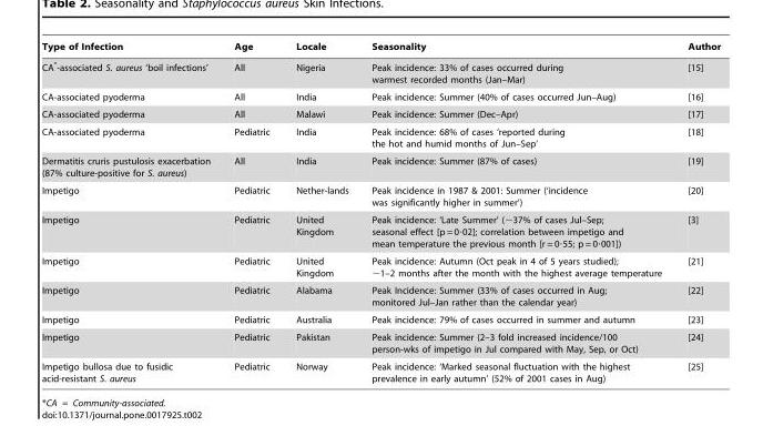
<table><thead><tr><td>Type of Infection</td><td>Age</td><td>Locale</td><td>Seasonality</td><td>Author</td></tr></thead><tbody><tr><td>CA*-associated S. aureus ‘boil infections’</td><td>All</td><td>Nigeria</td><td>Peak incidence: 33% of cases occurred during warmest recorded months (Jan–Mar)</td><td>[15]</td></tr><tr><td>CA-associated pyoderma</td><td>All</td><td>India</td><td>Peak incidence: Summer (40% of cases occurred Jun–Aug)</td><td>[16]</td></tr><tr><td>CA-associated pyoderma</td><td>All</td><td>Malawi</td><td>Peak incidence: Summer (Dec–Apr)</td><td>[17]</td></tr><tr><td>CA-associated pyoderma</td><td>Pediatric</td><td>India</td><td>Peak incidence: 68% of cases ‘reported during the hot and humid months of Jun–Sep’</td><td>[18]</td></tr><tr><td>Dermatitis cruris pustulosis exacerbation (87% culture-positive for S. aureus)</td><td>All</td><td>India</td><td>Peak incidence: Summer (87% of cases)</td><td>[19]</td></tr><tr><td>Impetigo</td><td>Pediatric</td><td>Nether-lands</td><td>Peak incidence in 1987 &amp; 2001: Summer (‘incidence was significantly higher in summer’)</td><td>[20]</td></tr><tr><td>Impetigo</td><td>Pediatric</td><td>United Kingdom</td><td>Peak incidence: ‘Late Summer’ (∼37% of cases Jul–Sep; seasonal effect [p = 0·02]; correlation between impetigo and mean temperature the previous month [r = 0·55; p = 0·001])</td><td>[3]</td></tr><tr><td>Impetigo</td><td>Pediatric</td><td>United Kingdom</td><td>Peak incidence: Autumn (Oct peak in 4 of 5 years studied); ∼1–2 months after the month with the highest average temperature</td><td>[21]</td></tr><tr><td>Impetigo</td><td>Pediatric</td><td>Alabama</td><td>Peak Incidence: Summer (33% of cases occurred in Aug; monitored Jul–Jan rather than the calendar year)</td><td>[22]</td></tr><tr><td>Impetigo</td><td>Pediatric</td><td>Australia</td><td>Peak incidence: 79% of cases occurred in summer and autumn</td><td>[23]</td></tr><tr><td>Impetigo</td><td>Pediatric</td><td>Pakistan</td><td>Peak incidence: Summer (2–3 fold increased incidence/100 person-wks of impetigo in Jul compared with May, Sep, or Oct)</td><td>[24]</td></tr><tr><td>Impetigo bullosa due to fusidic acid-resistant S. aureus</td><td>Pediatric</td><td>Norway</td><td>Peak incidence: ‘Marked seasonal fluctuation with the highest prevalence in early autumn’ (52% of 2001 cases in Aug)</td><td>[25]</td></tr></tbody></table>